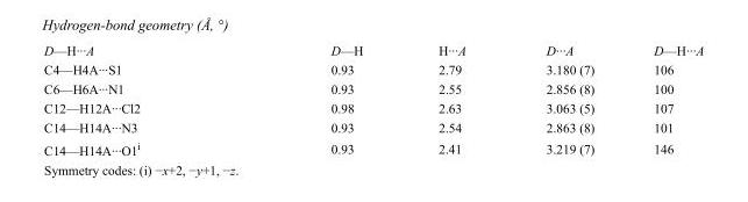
<table><tbody><tr><td>D—H···A</td><td>D—H</td><td>H···A</td><td>D···A</td><td>D—H···A</td></tr><tr><td>C4—H4A···S1</td><td>0.93</td><td>2.79</td><td>3.180 (7)</td><td>106</td></tr><tr><td>C6—H6A···N1</td><td>0.93</td><td>2.55</td><td>2.856 (8)</td><td>100</td></tr><tr><td>C12—H12A···Cl2</td><td>0.98</td><td>2.63</td><td>3.063 (5)</td><td>107</td></tr><tr><td>C14—H14A···N3</td><td>0.93</td><td>2.54</td><td>2.863 (8)</td><td>101</td></tr><tr><td>C14—H14A···O1<sup>i</sup></td><td>0.93</td><td>2.41</td><td>3.219 (7)</td><td>146</td></tr></tbody></table>